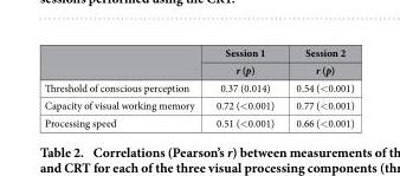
<table><thead><tr><td rowspan="2"></td><td rowspan="2">Session 1 r (p)</td><td rowspan="2">Session 2 r (p)</td></tr><tr></tr></thead><tbody><tr><td>Threshold of conscious perception</td><td>0.37 (0.014)</td><td>0.54 (&lt; 0.001)</td></tr><tr><td>Capacity of visual working memory</td><td>0.72 (&lt; 0.001)</td><td>0.77 (&lt; 0.001)</td></tr><tr><td>Processing speed</td><td>0.51 (&lt; 0.001)</td><td>0.66 (&lt; 0.001)</td></tr></tbody></table>